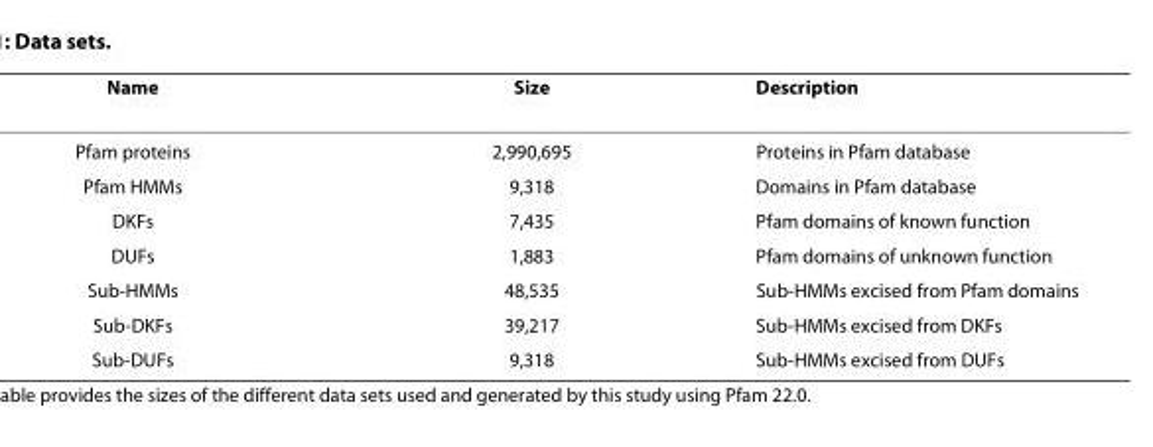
<table><thead><tr><td>Name</td><td>Size</td><td>Description</td></tr></thead><tbody><tr><td>Pfam proteins</td><td>2,990,695</td><td>Proteins in Pfam database</td></tr><tr><td>Pfam HMMs</td><td>9,318</td><td>Domains in Pfam database</td></tr><tr><td>DKFs</td><td>7,435</td><td>Pfam domains of known function</td></tr><tr><td>DUFs</td><td>1,883</td><td>Pfam domains of unknown function</td></tr><tr><td>Sub-HMMs</td><td>48,535</td><td>Sub-HMMs excised from Pfam domains</td></tr><tr><td>Sub-DKFs</td><td>39,217</td><td>Sub-HMMs excised from DKFs</td></tr><tr><td>Sub-DUFs</td><td>9,318</td><td>Sub-HMMs excised from DUFs</td></tr></tbody></table>